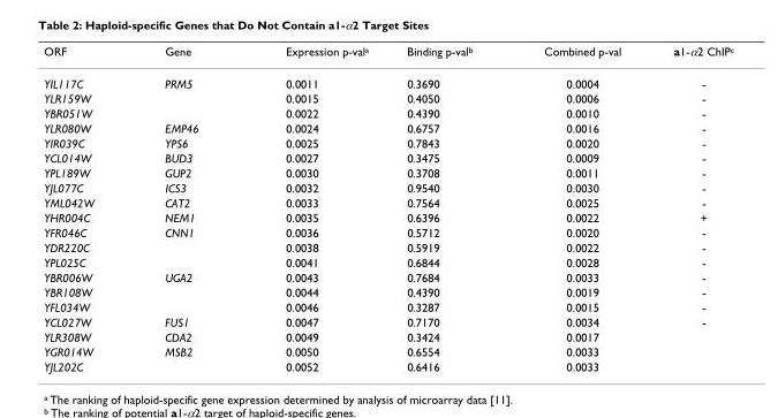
<table><thead><tr><td>ORF</td><td>Gene</td><td>Expression p-val<sup>a</sup></td><td>Binding p-val<sup>b</sup></td><td>Combined p-val</td><td>a1-α2 ChIP<sup>c</sup></td></tr></thead><tbody><tr><td>YIL117C</td><td>PRM5</td><td>0.0011</td><td>0.3690</td><td>0.0004</td><td>-</td></tr><tr><td>YLR159W</td><td></td><td>0.0015</td><td>0.4050</td><td>0.0006</td><td>-</td></tr><tr><td>YBR051W</td><td></td><td>0.0022</td><td>0.4390</td><td>0.0010</td><td>-</td></tr><tr><td>YLR080W</td><td>EMP46</td><td>0.0024</td><td>0.6757</td><td>0.0016</td><td>-</td></tr><tr><td>YIR039C</td><td>YPS6</td><td>0.0025</td><td>0.7843</td><td>0.0020</td><td>-</td></tr><tr><td>YCL014W</td><td>BUD3</td><td>0.0027</td><td>0.3475</td><td>0.0009</td><td>-</td></tr><tr><td>YPL189W</td><td>GUP2</td><td>0.0030</td><td>0.3708</td><td>0.0011</td><td>-</td></tr><tr><td>YJL077C</td><td>ICS3</td><td>0.0032</td><td>0.9540</td><td>0.0030</td><td>-</td></tr><tr><td>YML042W</td><td>CAT2</td><td>0.0033</td><td>0.7564</td><td>0.0025</td><td>-</td></tr><tr><td>YHR004C</td><td>NEM1</td><td>0.0035</td><td>0.6396</td><td>0.0022</td><td>+</td></tr><tr><td>YFR046C</td><td>CNN1</td><td>0.0036</td><td>0.5712</td><td>0.0020</td><td>-</td></tr><tr><td>YDR220C</td><td></td><td>0.0038</td><td>0.5919</td><td>0.0022</td><td>-</td></tr><tr><td>YPL025C</td><td></td><td>0.0041</td><td>0.6844</td><td>0.0028</td><td>-</td></tr><tr><td>YBR006W</td><td>UGA2</td><td>0.0043</td><td>0.7684</td><td>0.0033</td><td>-</td></tr><tr><td>YBR108W</td><td></td><td>0.0044</td><td>0.4390</td><td>0.0019</td><td>-</td></tr><tr><td>YFL034W</td><td></td><td>0.0046</td><td>0.3287</td><td>0.0015</td><td>-</td></tr><tr><td>YCL027W</td><td>FUS1</td><td>0.0047</td><td>0.7170</td><td>0.0034</td><td>-</td></tr><tr><td>YLR308W</td><td>CDA2</td><td>0.0049</td><td>0.3424</td><td>0.0017</td><td></td></tr><tr><td>YGR014W</td><td>MSB2</td><td>0.0050</td><td>0.6554</td><td>0.0033</td><td></td></tr><tr><td>YJL202C</td><td></td><td>0.0052</td><td>0.6416</td><td>0.0033</td><td></td></tr></tbody></table>